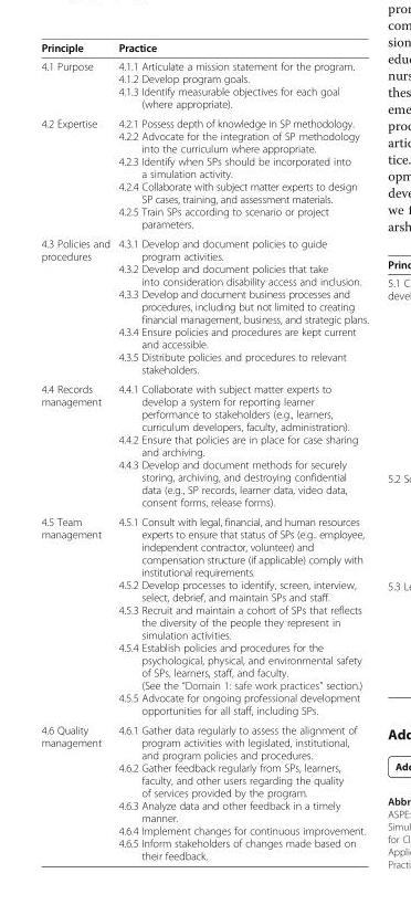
<table><thead><tr><td>Principle</td><td>Practice</td></tr></thead><tbody><tr><td>4.1 Purpose</td><td>4.1.1 Articulate a mission statement for the program. 4.1.2 Develop program goals. 4.1.3 Identify measurable objectives for each goal (where appropriate).</td></tr><tr><td>4.2 Expertise</td><td>4.2.1 Possess depth of knowledge in SP methodology. 4.2.2 Advocate for the integration of SP methodology into the curriculum where appropriate. 4.2.3 Identify when SPs should be incorporated into a simulation activity. 4.2.4 Collaborate with subject matter experts to design SP cases, training, and assessment materials. 4.2.5 Train SPs according to scenario or project parameters.</td></tr><tr><td>4.3 Policies and procedures</td><td>4.3.1 Develop and document policies to guide program activities. 4.3.2 Develop and document policies that take into consideration disability access and inclusion. 4.3.3 Develop and document business processes and procedures, including but not limited to creating financial management, business, and strategic plans. 4.3.4 Ensure policies and procedures are kept current and accessible. 4.3.5 Distribute policies and procedures to relevant stakeholders.</td></tr><tr><td>4.4 Records management</td><td>4.4.1 Collaborate with subject matter experts to develop a system for reporting learner performance to stakeholders (e.g., learners, curriculum developers, faculty, administration). 4.4.2 Ensure that policies are in place for case sharing and archiving. 4.4.3 Develop and document methods for securely storing, archiving, and destroying confidential data (e.g., SP records, learner data, video data, consent forms, release forms).</td></tr><tr><td>4.5 Team management</td><td>4.5.1 Consult with legal, financial, and human resources experts to ensure that status of SPs (e.g.. employee, independent contractor, volunteer) and compensation structure (if applicable) comply with institutional requirements. 4.5.2 Develop processes to identify, screen, interview, select, debrief, and maintain SPs and staff. 4.5.3 Recruit and maintain a cohort of SPs that reflects the diversity of the people they represent in simulation activities. 4.5.4 Establish policies and procedures for the psychological, physical, and environmental safety of SPs, learners, staff, and faculty. (See the “Domain 1: safe work practices” section.) 4.5.5 Advocate for ongoing professional development opportunities for all staff, including SPs.</td></tr><tr><td>4.6 Quality management</td><td>4.6.1 Gather data regularly to assess the alignment of program activities with legislated, institutional, and program policies and procedures. 4.6.2 Gather feedback regularly from SPs, learners, faculty, and other users regarding the quality of services provided by the program. 4.6.3 Analyze data and other feedback in a timely manner. 4.6.4 Implement changes for continuous improvement. 4.6.5 Inform stakeholders of changes made based on their feedback.</td></tr></tbody></table>